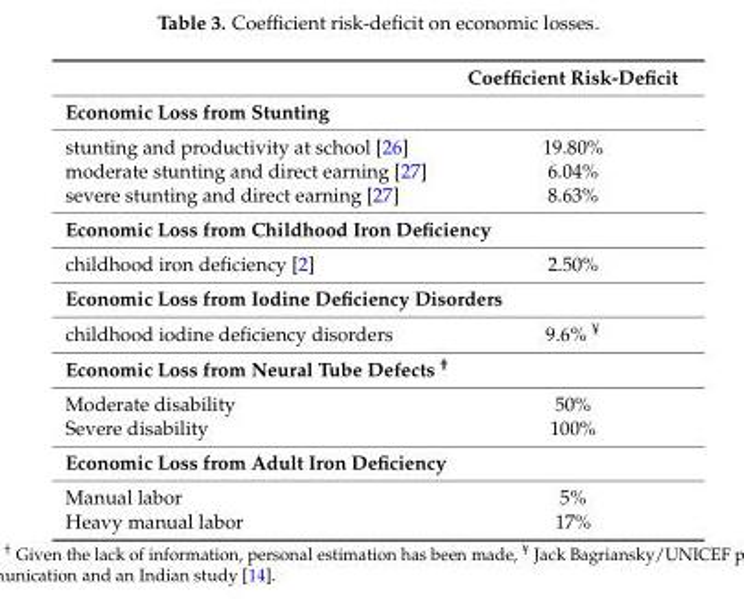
<table><thead><tr><td></td><td>Coefficient Risk-Deficit</td></tr></thead><tbody><tr><td colspan="2">Economic Loss from Stunting</td></tr><tr><td>stunting and productivity at school [26]</td><td>19.80%</td></tr><tr><td>moderate stunting and direct earning [27]</td><td>6.04%</td></tr><tr><td>severe stunting and direct earning [27]</td><td>8.63%</td></tr><tr><td colspan="2">Economic Loss from Childhood Iron Deficiency</td></tr><tr><td>childhood iron deficiency [2]</td><td>2.50%</td></tr><tr><td colspan="2">Economic Loss from Iodine Deficiency Disorders</td></tr><tr><td>childhood iodine deficiency disorders</td><td>9.6% <sup>¥</sup></td></tr><tr><td colspan="2">Economic Loss from Neural Tube Defects <sup>†</sup></td></tr><tr><td>Moderate disability</td><td>50%</td></tr><tr><td>Severe disability</td><td>100%</td></tr><tr><td colspan="2">Economic Loss from Adult Iron Deficiency</td></tr><tr><td>Manual labor</td><td>5%</td></tr><tr><td>Heavy manual labor</td><td>17%</td></tr></tbody></table>